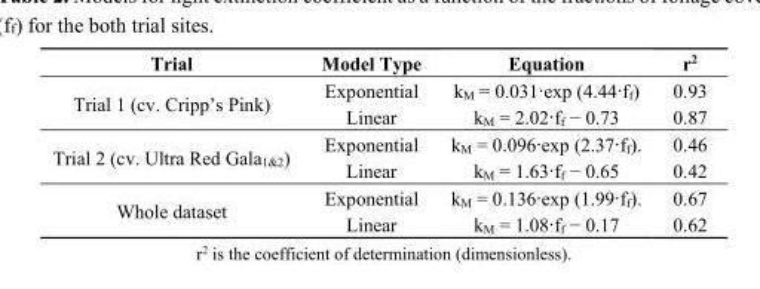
<table><thead><tr><td>Trial</td><td>Model Type</td><td>Equation</td><td>r<sup>2</sup></td></tr></thead><tbody><tr><td rowspan="2">Trial 1 (cv. Cripp’s Pink)</td><td>Exponential</td><td>k<sub>M</sub> = 0.031·exp (4.44·f<sub>f</sub>)</td><td>0.93</td></tr><tr><td>Linear</td><td>k<sub>M</sub> = 2.02·f<sub>f</sub> − 0.73</td><td>0.87</td></tr><tr><td rowspan="2">Trial 2 (cv. Ultra Red Gala<sub>1&amp;2</sub>)</td><td>Exponential</td><td>k<sub>M</sub> = 0.096·exp (2.37·f<sub>f</sub>).</td><td>0.46</td></tr><tr><td>Linear</td><td>k<sub>M</sub> = 1.63·f<sub>f</sub> − 0.65</td><td>0.42</td></tr><tr><td rowspan="2">Whole dataset</td><td>Exponential</td><td>k<sub>M</sub> = 0.136·exp (1.99·f<sub>f</sub>).</td><td>0.67</td></tr><tr><td>Linear</td><td>k<sub>M</sub> = 1.08·f<sub>f</sub> − 0.17</td><td>0.62</td></tr></tbody></table>